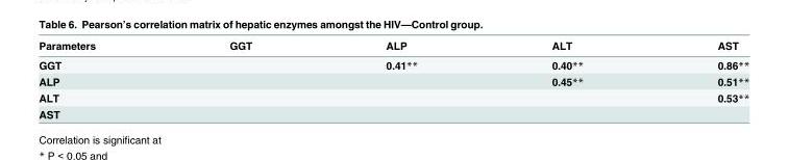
<table><thead><tr><td>Parameters</td><td>GGT</td><td>ALP</td><td>ALT</td><td>AST</td></tr></thead><tbody><tr><td>GGT</td><td></td><td>0.41**</td><td>0.40**</td><td>0.86**</td></tr><tr><td>ALP</td><td></td><td></td><td>0.45**</td><td>0.51**</td></tr><tr><td>ALT</td><td></td><td></td><td></td><td>0.53**</td></tr><tr><td>AST</td><td></td><td></td><td></td><td></td></tr></tbody></table>